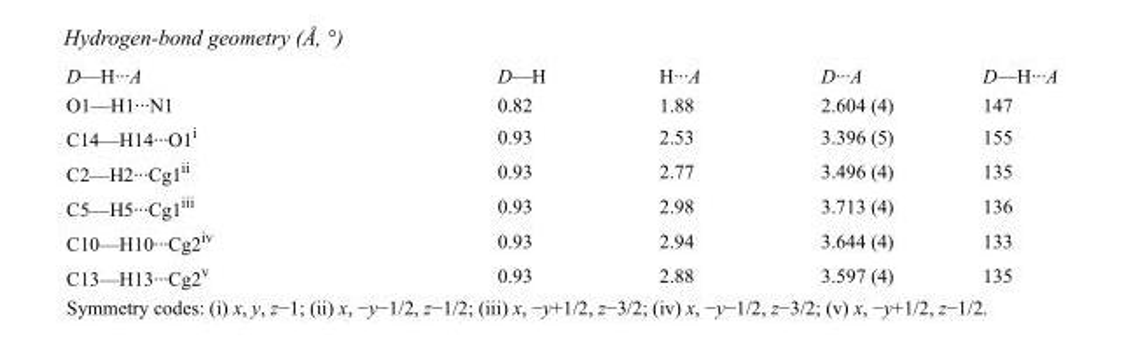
<table><tbody><tr><td>D—H···A</td><td>D—H</td><td>H···A</td><td>D···A</td><td>D—H···A</td></tr><tr><td>O1—H1···N1</td><td>0.82</td><td>1.88</td><td>2.604 (4)</td><td>147</td></tr><tr><td>C14—H14···O1<sup>i</sup></td><td>0.93</td><td>2.53</td><td>3.396 (5)</td><td>155</td></tr><tr><td>C2—H2···Cg1<sup>ii</sup></td><td>0.93</td><td>2.77</td><td>3.496 (4)</td><td>135</td></tr><tr><td>C5—H5···Cg1<sup>iii</sup></td><td>0.93</td><td>2.98</td><td>3.713 (4)</td><td>136</td></tr><tr><td>C10—H10···Cg2<sup>iv</sup></td><td>0.93</td><td>2.94</td><td>3.644 (4)</td><td>133</td></tr><tr><td>C13—H13···Cg2<sup>v</sup></td><td>0.93</td><td>2.88</td><td>3.597 (4)</td><td>135</td></tr></tbody></table>